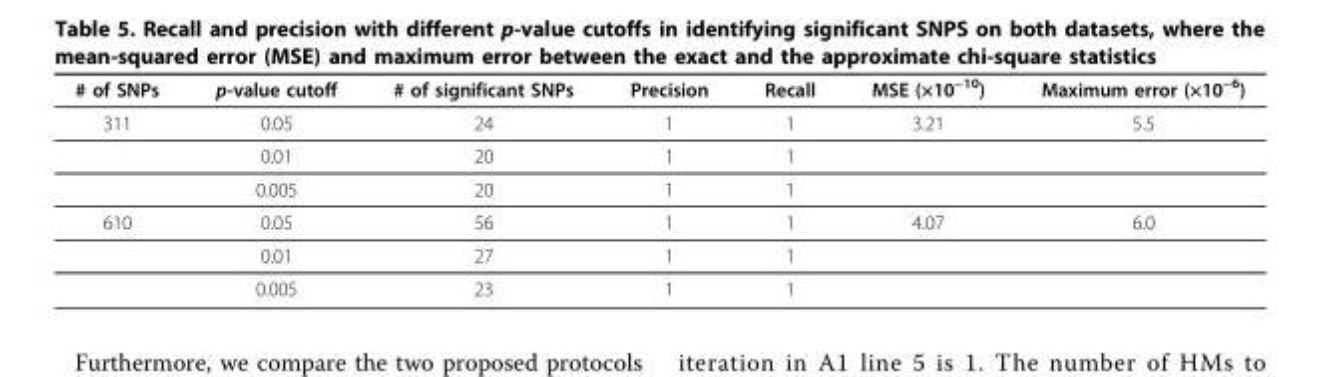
<table><thead><tr><td># of SNPs</td><td>p-value cutoff</td><td># of significant SNPs</td><td>Precision</td><td>Recall</td><td>MSE (×10<sup>−10</sup>)</td><td>Maximum error (×10<sup>−6</sup>)</td></tr></thead><tbody><tr><td rowspan="3">311</td><td>0.05</td><td>24</td><td>1</td><td>1</td><td>3.21</td><td>5.5</td></tr><tr><td>0.01</td><td>20</td><td>1</td><td>1</td><td></td><td></td></tr><tr><td>0.005</td><td>20</td><td>1</td><td>1</td><td></td><td></td></tr><tr><td rowspan="3">610</td><td>0.05</td><td>56</td><td>1</td><td>1</td><td>4.07</td><td>6.0</td></tr><tr><td>0.01</td><td>27</td><td>1</td><td>1</td><td></td><td></td></tr><tr><td>0.005</td><td>23</td><td>1</td><td>1</td><td></td><td></td></tr></tbody></table>